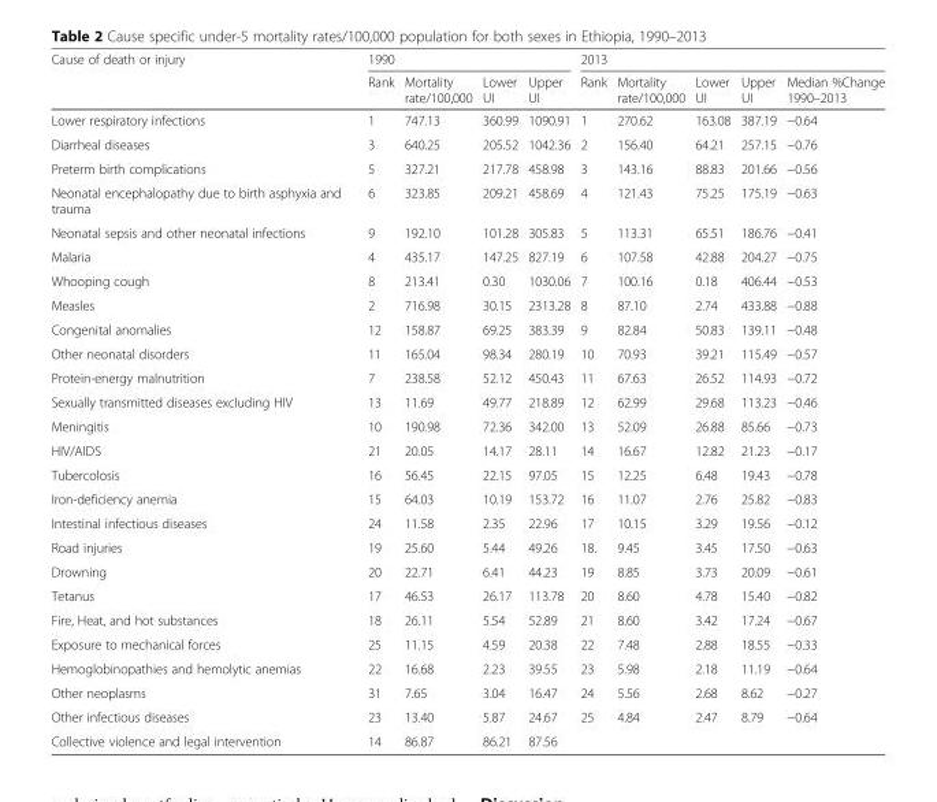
<table><thead><tr><td rowspan="2">Cause of death or injury</td><td colspan="4">1990</td><td colspan="5">2013</td></tr><tr><td>Rank</td><td>Mortality rate/100,000</td><td>Lower UI</td><td>Upper UI</td><td>Rank</td><td>Mortality rate/100,000</td><td>Lower UI</td><td>Upper UI</td><td>Median %Change 1990–2013</td></tr></thead><tbody><tr><td>Lower respiratory infections</td><td>1</td><td>747.13</td><td>360.99</td><td>1090.91</td><td>1</td><td>270.62</td><td>163.08</td><td>387.19</td><td>−0.64</td></tr><tr><td>Diarrheal diseases</td><td>3</td><td>640.25</td><td>205.52</td><td>1042.36</td><td>2</td><td>156.40</td><td>64.21</td><td>257.15</td><td>−0.76</td></tr><tr><td>Preterm birth complications</td><td>5</td><td>327.21</td><td>217.78</td><td>458.98</td><td>3</td><td>143.16</td><td>88.83</td><td>201.66</td><td>−0.56</td></tr><tr><td>Neonatal encephalopathy due to birth asphyxia and trauma</td><td>6</td><td>323.85</td><td>209.21</td><td>458.69</td><td>4</td><td>121.43</td><td>75.25</td><td>175.19</td><td>−0.63</td></tr><tr><td>Neonatal sepsis and other neonatal infections</td><td>9</td><td>192.10</td><td>101.28</td><td>305.83</td><td>5</td><td>113.31</td><td>65.51</td><td>186.76</td><td>−0.41</td></tr><tr><td>Malaria</td><td>4</td><td>435.17</td><td>147.25</td><td>827.19</td><td>6</td><td>107.58</td><td>42.88</td><td>204.27</td><td>−0.75</td></tr><tr><td>Whooping cough</td><td>8</td><td>213.41</td><td>0.30</td><td>1030.06</td><td>7</td><td>100.16</td><td>0.18</td><td>406.44</td><td>−0.53</td></tr><tr><td>Measles</td><td>2</td><td>716.98</td><td>30.15</td><td>2313.28</td><td>8</td><td>87.10</td><td>2.74</td><td>433.88</td><td>−0.88</td></tr><tr><td>Congenital anomalies</td><td>12</td><td>158.87</td><td>69.25</td><td>383.39</td><td>9</td><td>82.84</td><td>50.83</td><td>139.11</td><td>−0.48</td></tr><tr><td>Other neonatal disorders</td><td>11</td><td>165.04</td><td>98.34</td><td>280.19</td><td>10</td><td>70.93</td><td>39.21</td><td>115.49</td><td>−0.57</td></tr><tr><td>Protein-energy malnutrition</td><td>7</td><td>238.58</td><td>52.12</td><td>450.43</td><td>11</td><td>67.63</td><td>26.52</td><td>114.93</td><td>−0.72</td></tr><tr><td>Sexually transmitted diseases excluding HIV</td><td>13</td><td>11.69</td><td>49.77</td><td>218.89</td><td>12</td><td>62.99</td><td>29.68</td><td>113.23</td><td>−0.46</td></tr><tr><td>Meningitis</td><td>10</td><td>190.98</td><td>72.36</td><td>342.00</td><td>13</td><td>52.09</td><td>26.88</td><td>85.66</td><td>−0.73</td></tr><tr><td>HIV/AIDS</td><td>21</td><td>20.05</td><td>14.17</td><td>28.11</td><td>14</td><td>16.67</td><td>12.82</td><td>21.23</td><td>−0.17</td></tr><tr><td>Tubercolosis</td><td>16</td><td>56.45</td><td>22.15</td><td>97.05</td><td>15</td><td>12.25</td><td>6.48</td><td>19.43</td><td>−0.78</td></tr><tr><td>Iron-deficiency anemia</td><td>15</td><td>64.03</td><td>10.19</td><td>153.72</td><td>16</td><td>11.07</td><td>2.76</td><td>25.82</td><td>−0.83</td></tr><tr><td>Intestinal infectious diseases</td><td>24</td><td>11.58</td><td>2.35</td><td>22.96</td><td>17</td><td>10.15</td><td>3.29</td><td>19.56</td><td>−0.12</td></tr><tr><td>Road injuries</td><td>19</td><td>25.60</td><td>5.44</td><td>49.26</td><td>18.</td><td>9.45</td><td>3.45</td><td>17.50</td><td>−0.63</td></tr><tr><td>Drowning</td><td>20</td><td>22.71</td><td>6.41</td><td>44.23</td><td>19</td><td>8.85</td><td>3.73</td><td>20.09</td><td>−0.61</td></tr><tr><td>Tetanus</td><td>17</td><td>46.53</td><td>26.17</td><td>113.78</td><td>20</td><td>8.60</td><td>4.78</td><td>15.40</td><td>−0.82</td></tr><tr><td>Fire, Heat, and hot substances</td><td>18</td><td>26.11</td><td>5.54</td><td>52.89</td><td>21</td><td>8.60</td><td>3.42</td><td>17.24</td><td>−0.67</td></tr><tr><td>Exposure to mechanical forces</td><td>25</td><td>11.15</td><td>4.59</td><td>20.38</td><td>22</td><td>7.48</td><td>2.88</td><td>18.55</td><td>−0.33</td></tr><tr><td>Hemoglobinopathies and hemolytic anemias</td><td>22</td><td>16.68</td><td>2.23</td><td>39.55</td><td>23</td><td>5.98</td><td>2.18</td><td>11.19</td><td>−0.64</td></tr><tr><td>Other neoplasms</td><td>31</td><td>7.65</td><td>3.04</td><td>16.47</td><td>24</td><td>5.56</td><td>2.68</td><td>8.62</td><td>−0.27</td></tr><tr><td>Other infectious diseases</td><td>23</td><td>13.40</td><td>5.87</td><td>24.67</td><td>25</td><td>4.84</td><td>2.47</td><td>8.79</td><td>−0.64</td></tr><tr><td>Collective violence and legal intervention</td><td>14</td><td>86.87</td><td>86.21</td><td>87.56</td><td></td><td></td><td></td><td></td><td></td></tr></tbody></table>